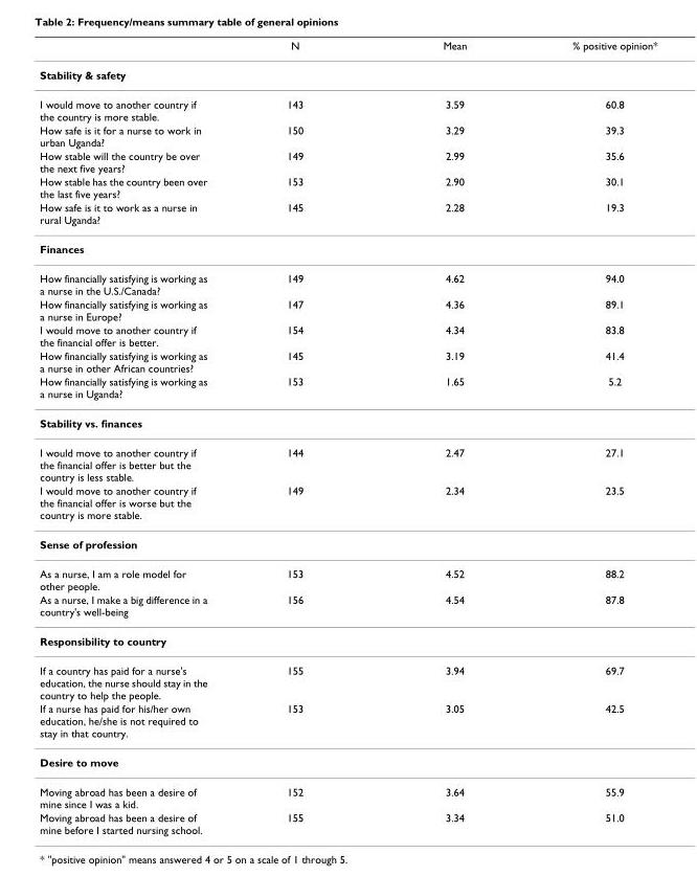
<table><thead><tr><td></td><td>N</td><td>Mean</td><td>% positive opinion*</td></tr></thead><tbody><tr><td colspan="4">Stability &amp; safety</td></tr><tr><td>I would move to another country if the country is more stable.</td><td>143</td><td>3.59</td><td>60.8</td></tr><tr><td>How safe is it for a nurse to work in urban Uganda?</td><td>150</td><td>3.29</td><td>39.3</td></tr><tr><td>How stable will the country be over the next five years?</td><td>149</td><td>2.99</td><td>35.6</td></tr><tr><td>How stable has the country been over the last five years?</td><td>153</td><td>2.90</td><td>30.1</td></tr><tr><td>How safe is it to work as a nurse in rural Uganda?</td><td>145</td><td>2.28</td><td>19.3</td></tr><tr><td colspan="4">Finances</td></tr><tr><td>How financially satisfying is working as a nurse in the U.S./Canada?</td><td>149</td><td>4.62</td><td>94.0</td></tr><tr><td>How financially satisfying is working as a nurse in Europe?</td><td>147</td><td>4.36</td><td>89.1</td></tr><tr><td>I would move to another country if the financial offer is better.</td><td>154</td><td>4.34</td><td>83.8</td></tr><tr><td>How financially satisfying is working as a nurse in other African countries?</td><td>145</td><td>3.19</td><td>41.4</td></tr><tr><td>How financially satisfying is working as a nurse in Uganda?</td><td>153</td><td>1.65</td><td>5.2</td></tr><tr><td colspan="4">Stability vs. finances</td></tr><tr><td>I would move to another country if the financial offer is better but the country is less stable.</td><td>144</td><td>2.47</td><td>27.1</td></tr><tr><td>I would move to another country if the financial offer is worse but the country is more stable.</td><td>149</td><td>2.34</td><td>23.5</td></tr><tr><td colspan="4">Sense of profession</td></tr><tr><td>As a nurse, I am a role model for other people.</td><td>153</td><td>4.52</td><td>88.2</td></tr><tr><td>As a nurse, I make a big difference in a country&#x27;s well-being</td><td>156</td><td>4.54</td><td>87.8</td></tr><tr><td colspan="4">Responsibility to country</td></tr><tr><td>If a country has paid for a nurse&#x27;s education, the nurse should stay in the country to help the people.</td><td>155</td><td>3.94</td><td>69.7</td></tr><tr><td>If a nurse has paid for his/her own education, he/she is not required to stay in that country.</td><td>153</td><td>3.05</td><td>42.5</td></tr><tr><td colspan="4">Desire to move</td></tr><tr><td>Moving abroad has been a desire of mine since I was a kid.</td><td>152</td><td>3.64</td><td>55.9</td></tr><tr><td>Moving abroad has been a desire of mine before I started nursing school.</td><td>155</td><td>3.34</td><td>51.0</td></tr></tbody></table>